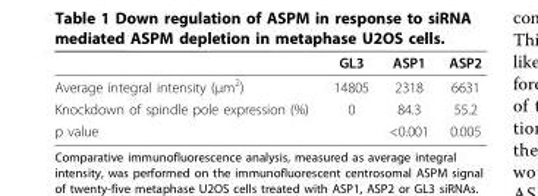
<table><thead><tr><td></td><td>GL3</td><td>ASP1</td><td>ASP2</td></tr></thead><tbody><tr><td>Average integral intensity (μm<sup>2</sup>)</td><td>14805</td><td>2318</td><td>6631</td></tr><tr><td>Knockdown of spindle pole expression (%)</td><td>0</td><td>84.3</td><td>55.2</td></tr><tr><td>p value</td><td></td><td>&lt;0.001</td><td>0.005</td></tr></tbody></table>